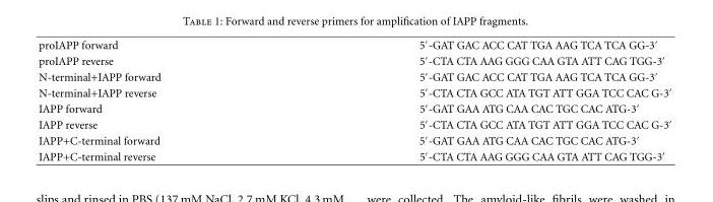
<table><tbody><tr><td>proIAPP forward</td><td>5′-GAT GAC ACC CAT TGA AAG TCA TCA GG-3′</td></tr><tr><td>proIAPP reverse</td><td>5′-CTA CTA AAG GGG CAA GTA ATT CAG TGG-3′</td></tr><tr><td>N-terminal+IAPP forward</td><td>5′-GAT GAC ACC CAT TGA AAG TCA TCA GG-3′</td></tr><tr><td>N-terminal+IAPP reverse</td><td>5′-CTA CTA GCC ATA TGT ATT GGA TCC CAC G-3′</td></tr><tr><td>IAPP forward</td><td>5′-GAT GAA ATG CAA CAC TGC CAC ATG-3′</td></tr><tr><td>IAPP reverse</td><td>5′-CTA CTA GCC ATA TGT ATT GGA TCC CAC G-3′</td></tr><tr><td>IAPP+C-terminal forward</td><td>5′-GAT GAA ATG CAA CAC TGC CAC ATG-3′</td></tr><tr><td>IAPP+C-terminal reverse</td><td>5′-CTA CTA AAG GGG CAA GTA ATT CAG TGG-3′</td></tr></tbody></table>